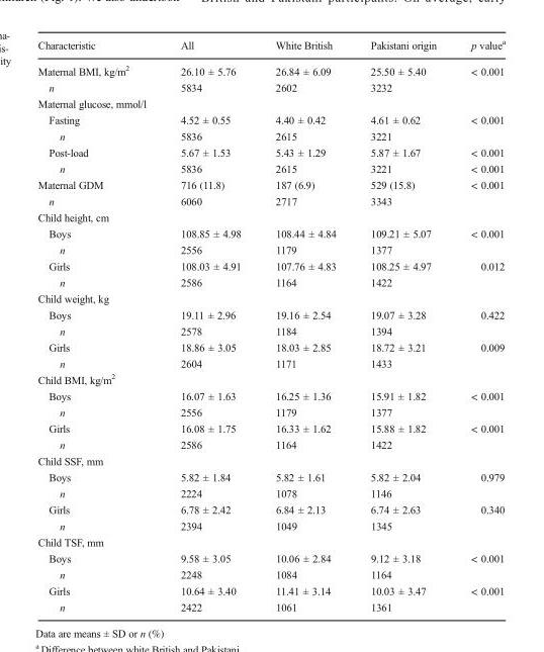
<table><thead><tr><td>Characteristic</td><td>All</td><td>White British</td><td>Pakistani origin</td><td>p value<sup>a</sup></td></tr></thead><tbody><tr><td>Maternal BMI, kg/m<sup>2</sup></td><td>26.10 ± 5.76</td><td>26.84 ± 6.09</td><td>25.50 ± 5.40</td><td>&lt; 0.001</td></tr><tr><td>n</td><td>5834</td><td>2602</td><td>3232</td><td></td></tr><tr><td colspan="5">Maternal glucose, mmol/l</td></tr><tr><td>Fasting</td><td>4.52 ± 0.55</td><td>4.40 ± 0.42</td><td>4.61 ± 0.62</td><td>&lt; 0.001</td></tr><tr><td>n</td><td>5836</td><td>2615</td><td>3221</td><td></td></tr><tr><td>Post-load</td><td>5.67 ± 1.53</td><td>5.43 ± 1.29</td><td>5.87 ± 1.67</td><td>&lt; 0.001</td></tr><tr><td>n</td><td>5836</td><td>2615</td><td>3221</td><td>&lt; 0.001</td></tr><tr><td>Maternal GDM</td><td>716 (11.8)</td><td>187 (6.9)</td><td>529 (15.8)</td><td>&lt; 0.001</td></tr><tr><td>n</td><td>6060</td><td>2717</td><td>3343</td><td></td></tr><tr><td colspan="5">Child height, cm</td></tr><tr><td>Boys</td><td>108.85 ± 4.98</td><td>108.44 ± 4.84</td><td>109.21 ± 5.07</td><td>&lt; 0.001</td></tr><tr><td>n</td><td>2556</td><td>1179</td><td>1377</td><td></td></tr><tr><td>Girls</td><td>108.03 ± 4.91</td><td>107.76 ± 4.83</td><td>108.25 ± 4.97</td><td>0.012</td></tr><tr><td>n</td><td>2586</td><td>1164</td><td>1422</td><td></td></tr><tr><td colspan="5">Child weight, kg</td></tr><tr><td>Boys</td><td>19.11 ± 2.96</td><td>19.16 ± 2.54</td><td>19.07 ± 3.28</td><td>0.422</td></tr><tr><td>n</td><td>2578</td><td>1184</td><td>1394</td><td></td></tr><tr><td>Girls</td><td>18.86 ± 3.05</td><td>18.03 ± 2.85</td><td>18.72 ± 3.21</td><td>0.009</td></tr><tr><td>n</td><td>2604</td><td>1171</td><td>1433</td><td></td></tr><tr><td colspan="5">Child BMI, kg/m<sup>2</sup></td></tr><tr><td>Boys</td><td>16.07 ± 1.63</td><td>16.25 ± 1.36</td><td>15.91 ± 1.82</td><td>&lt; 0.001</td></tr><tr><td>n</td><td>2556</td><td>1179</td><td>1377</td><td></td></tr><tr><td>Girls</td><td>16.08 ± 1.75</td><td>16.33 ± 1.62</td><td>15.88 ± 1.82</td><td>&lt; 0.001</td></tr><tr><td>n</td><td>2586</td><td>1164</td><td>1422</td><td></td></tr><tr><td colspan="5">Child SSF, mm</td></tr><tr><td>Boys</td><td>5.82 ± 1.84</td><td>5.82 ± 1.61</td><td>5.82 ± 2.04</td><td>0.979</td></tr><tr><td>n</td><td>2224</td><td>1078</td><td>1146</td><td></td></tr><tr><td>Girls</td><td>6.78 ± 2.42</td><td>6.84 ± 2.13</td><td>6.74 ± 2.63</td><td>0.340</td></tr><tr><td>n</td><td>2394</td><td>1049</td><td>1345</td><td></td></tr><tr><td colspan="5">Child TSF, mm</td></tr><tr><td>Boys</td><td>9.58 ± 3.05</td><td>10.06 ± 2.84</td><td>9.12 ± 3.18</td><td>&lt; 0.001</td></tr><tr><td>n</td><td>2248</td><td>1084</td><td>1164</td><td></td></tr><tr><td>Girls</td><td>10.64 ± 3.40</td><td>11.41 ± 3.14</td><td>10.03 ± 3.47</td><td>&lt; 0.001</td></tr><tr><td>n</td><td>2422</td><td>1061</td><td>1361</td><td></td></tr></tbody></table>